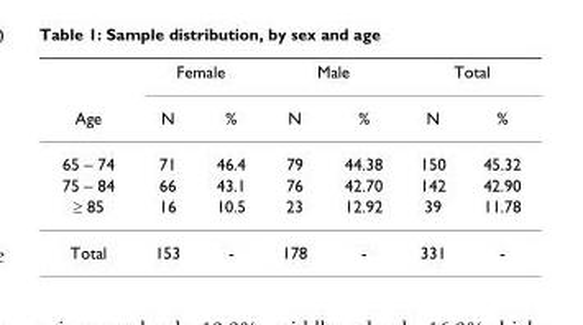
<table><thead><tr><td rowspan="2">Age</td><td colspan="2">Female</td><td colspan="2">Male</td><td colspan="2">Total</td></tr><tr><td>N</td><td>%</td><td>N</td><td>%</td><td>N</td><td>%</td></tr></thead><tbody><tr><td>65 – 74</td><td>71</td><td>46.4</td><td>79</td><td>44.38</td><td>150</td><td>45.32</td></tr><tr><td>75 – 84</td><td>66</td><td>43.1</td><td>76</td><td>42.70</td><td>142</td><td>42.90</td></tr><tr><td>≥ 85</td><td>16</td><td>10.5</td><td>23</td><td>12.92</td><td>39</td><td>11.78</td></tr><tr><td>Total</td><td>153</td><td>-</td><td>178</td><td>-</td><td>331</td><td>-</td></tr></tbody></table>